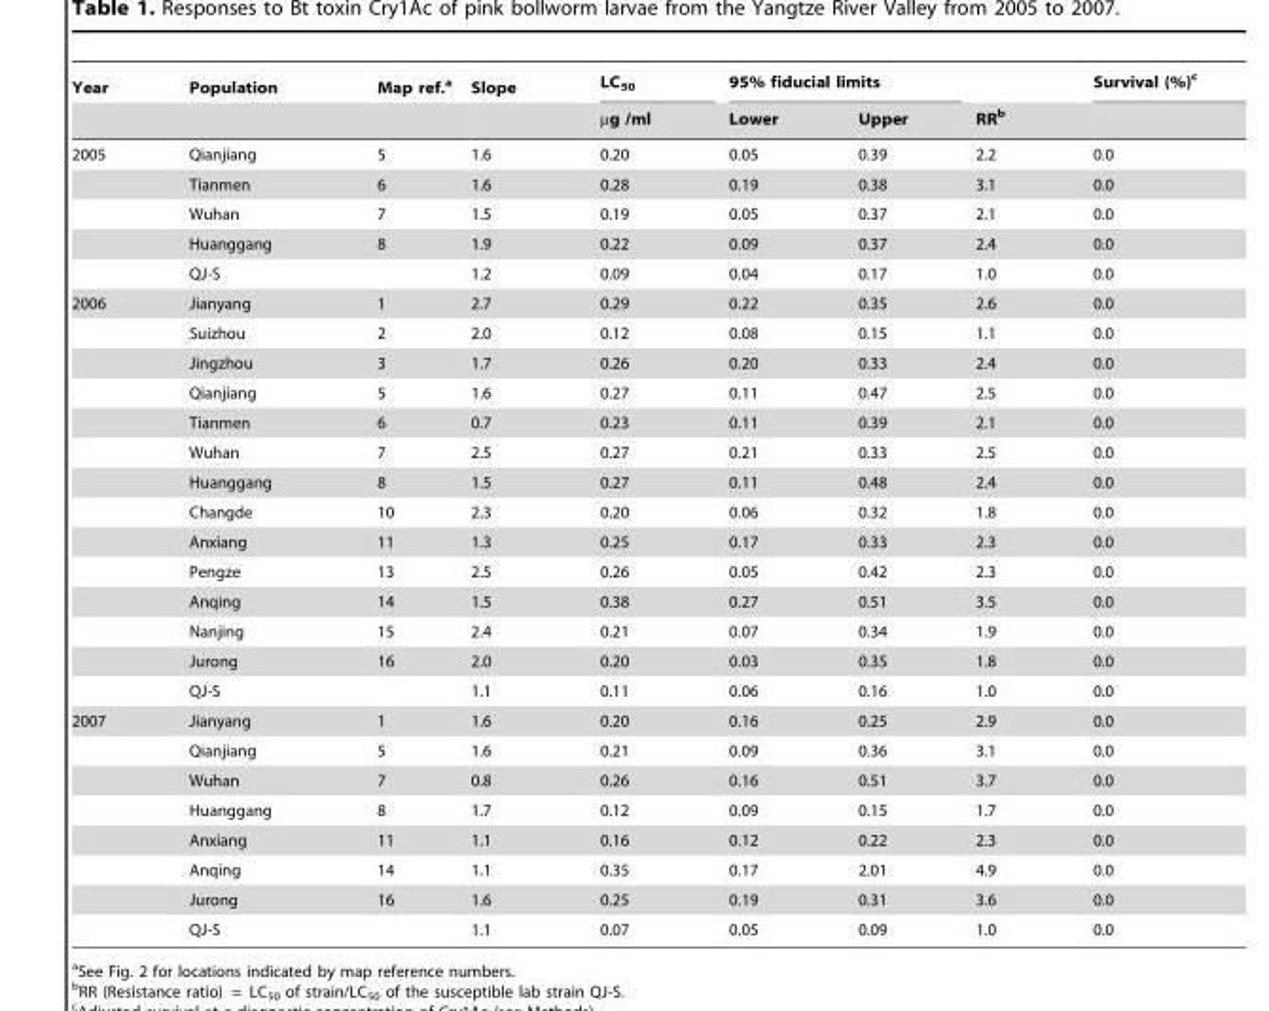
<table><thead><tr><td rowspan="2">Year</td><td rowspan="2">Population</td><td rowspan="2">Map ref.<sup>a</sup></td><td rowspan="2">Slope</td><td rowspan="2">LC<sub>50</sub> µg /ml</td><td colspan="2">95% fiducial limits</td><td rowspan="2">RR<sup>b</sup></td><td rowspan="2">Survival (%)<sup>c</sup></td></tr><tr><td>Lower</td><td>Upper</td></tr></thead><tbody><tr><td rowspan="5">2005</td><td>Qianjiang</td><td>5</td><td>1.6</td><td>0.20</td><td>0.05</td><td>0.39</td><td>2.2</td><td>0.0</td></tr><tr><td>Tianmen</td><td>6</td><td>1.6</td><td>0.28</td><td>0.19</td><td>0.38</td><td>3.1</td><td>0.0</td></tr><tr><td>Wuhan</td><td>7</td><td>1.5</td><td>0.19</td><td>0.05</td><td>0.37</td><td>2.1</td><td>0.0</td></tr><tr><td>Huanggang</td><td>8</td><td>1.9</td><td>0.22</td><td>0.09</td><td>0.37</td><td>2.4</td><td>0.0</td></tr><tr><td>QJ-S</td><td></td><td>1.2</td><td>0.09</td><td>0.04</td><td>0.17</td><td>1.0</td><td>0.0</td></tr><tr><td rowspan="14">2006</td><td>Jianyang</td><td>1</td><td>2.7</td><td>0.29</td><td>0.22</td><td>0.35</td><td>2.6</td><td>0.0</td></tr><tr><td>Suizhou</td><td>2</td><td>2.0</td><td>0.12</td><td>0.08</td><td>0.15</td><td>1.1</td><td>0.0</td></tr><tr><td>Jingzhou</td><td>3</td><td>1.7</td><td>0.26</td><td>0.20</td><td>0.33</td><td>2.4</td><td>0.0</td></tr><tr><td>Qianjiang</td><td>5</td><td>1.6</td><td>0.27</td><td>0.11</td><td>0.47</td><td>2.5</td><td>0.0</td></tr><tr><td>Tianmen</td><td>6</td><td>0.7</td><td>0.23</td><td>0.11</td><td>0.39</td><td>2.1</td><td>0.0</td></tr><tr><td>Wuhan</td><td>7</td><td>2.5</td><td>0.27</td><td>0.21</td><td>0.33</td><td>2.5</td><td>0.0</td></tr><tr><td>Huanggang</td><td>8</td><td>1.5</td><td>0.27</td><td>0.11</td><td>0.48</td><td>2.4</td><td>0.0</td></tr><tr><td>Changde</td><td>10</td><td>2.3</td><td>0.20</td><td>0.06</td><td>0.32</td><td>1.8</td><td>0.0</td></tr><tr><td>Anxiang</td><td>11</td><td>1.3</td><td>0.25</td><td>0.17</td><td>0.33</td><td>2.3</td><td>0.0</td></tr><tr><td>Pengze</td><td>13</td><td>2.5</td><td>0.26</td><td>0.05</td><td>0.42</td><td>2.3</td><td>0.0</td></tr><tr><td>Anqing</td><td>14</td><td>1.5</td><td>0.38</td><td>0.27</td><td>0.51</td><td>3.5</td><td>0.0</td></tr><tr><td>Nanjing</td><td>15</td><td>2.4</td><td>0.21</td><td>0.07</td><td>0.34</td><td>1.9</td><td>0.0</td></tr><tr><td>Jurong</td><td>16</td><td>2.0</td><td>0.20</td><td>0.03</td><td>0.35</td><td>1.8</td><td>0.0</td></tr><tr><td>QJ-S</td><td></td><td>1.1</td><td>0.11</td><td>0.06</td><td>0.16</td><td>1.0</td><td>0.0</td></tr><tr><td rowspan="8">2007</td><td>Jianyang</td><td>1</td><td>1.6</td><td>0.20</td><td>0.16</td><td>0.25</td><td>2.9</td><td>0.0</td></tr><tr><td>Qianjiang</td><td>5</td><td>1.6</td><td>0.21</td><td>0.09</td><td>0.36</td><td>3.1</td><td>0.0</td></tr><tr><td>Wuhan</td><td>7</td><td>0.8</td><td>0.26</td><td>0.16</td><td>0.51</td><td>3.7</td><td>0.0</td></tr><tr><td>Huanggang</td><td>8</td><td>1.7</td><td>0.12</td><td>0.09</td><td>0.15</td><td>1.7</td><td>0.0</td></tr><tr><td>Anxiang</td><td>11</td><td>1.1</td><td>0.16</td><td>0.12</td><td>0.22</td><td>2.3</td><td>0.0</td></tr><tr><td>Anqing</td><td>14</td><td>1.1</td><td>0.35</td><td>0.17</td><td>2.01</td><td>4.9</td><td>0.0</td></tr><tr><td>Jurong</td><td>16</td><td>1.6</td><td>0.25</td><td>0.19</td><td>0.31</td><td>3.6</td><td>0.0</td></tr><tr><td>QJ-S</td><td></td><td>1.1</td><td>0.07</td><td>0.05</td><td>0.09</td><td>1.0</td><td>0.0</td></tr></tbody></table>